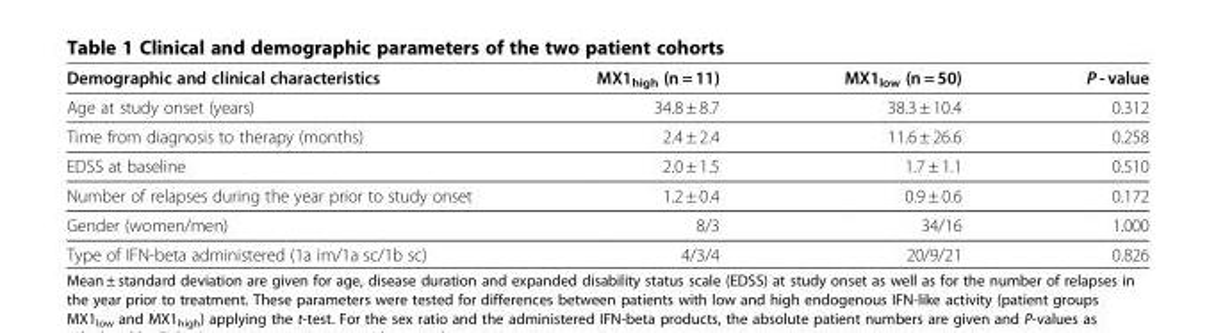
<table><thead><tr><td>Demographic and clinical characteristics</td><td>MX1<sub>high</sub> (n = 11)</td><td>MX1<sub>low</sub> (n = 50)</td><td>P - value</td></tr></thead><tbody><tr><td>Age at study onset (years)</td><td>34.8 ± 8.7</td><td>38.3 ± 10.4</td><td>0.312</td></tr><tr><td>Time from diagnosis to therapy (months)</td><td>2.4 ± 2.4</td><td>11.6 ± 26.6</td><td>0.258</td></tr><tr><td>EDSS at baseline</td><td>2.0 ± 1.5</td><td>1.7 ± 1.1</td><td>0.510</td></tr><tr><td>Number of relapses during the year prior to study onset</td><td>1.2 ± 0.4</td><td>0.9 ± 0.6</td><td>0.172</td></tr><tr><td>Gender (women/men)</td><td>8/3</td><td>34/16</td><td>1.000</td></tr><tr><td>Type of IFN-beta administered (1a im/1a sc/1b sc)</td><td>4/3/4</td><td>20/9/21</td><td>0.826</td></tr></tbody></table>